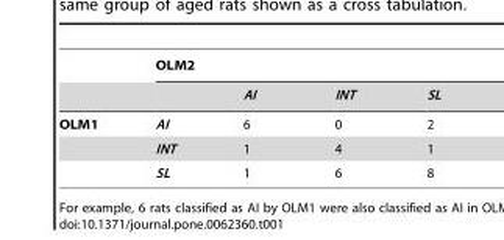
<table><thead><tr><td rowspan="2"></td><td colspan="4">OLM2</td></tr><tr><td></td><td>AI</td><td>INT</td><td>SL</td></tr></thead><tbody><tr><td rowspan="3">OLM1</td><td>AI</td><td>6</td><td>0</td><td>2</td></tr><tr><td>INT</td><td>1</td><td>4</td><td>1</td></tr><tr><td>SL</td><td>1</td><td>6</td><td>8</td></tr></tbody></table>